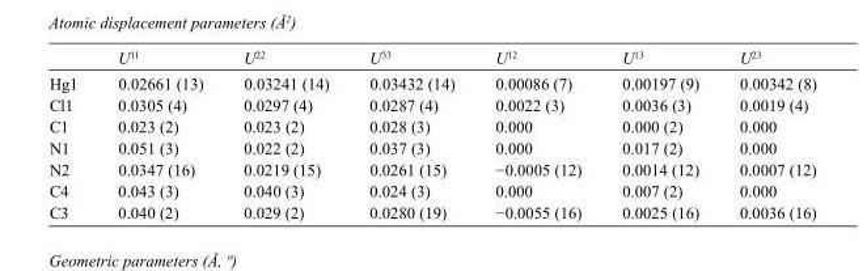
<table><thead><tr><td></td><td>U<sup>11</sup></td><td>U<sup>22</sup></td><td>U<sup>33</sup></td><td>U<sup>12</sup></td><td>U<sup>13</sup></td><td>U<sup>23</sup></td></tr></thead><tbody><tr><td>Hg1</td><td>0.02661 (13)</td><td>0.03241 (14)</td><td>0.03432 (14)</td><td>0.00086 (7)</td><td>0.00197 (9)</td><td>0.00342 (8)</td></tr><tr><td>Cl1</td><td>0.0305 (4)</td><td>0.0297 (4)</td><td>0.0287 (4)</td><td>0.0022 (3)</td><td>0.0036 (3)</td><td>0.0019 (4)</td></tr><tr><td>C1</td><td>0.023 (2)</td><td>0.023 (2)</td><td>0.028 (3)</td><td>0.000</td><td>0.000 (2)</td><td>0.000</td></tr><tr><td>N1</td><td>0.051 (3)</td><td>0.022 (2)</td><td>0.037 (3)</td><td>0.000</td><td>0.017 (2)</td><td>0.000</td></tr><tr><td>N2</td><td>0.0347 (16)</td><td>0.0219 (15)</td><td>0.0261 (15)</td><td>−0.0005 (12)</td><td>0.0014 (12)</td><td>0.0007 (12)</td></tr><tr><td>C4</td><td>0.043 (3)</td><td>0.040 (3)</td><td>0.024 (3)</td><td>0.000</td><td>0.007 (2)</td><td>0.000</td></tr><tr><td>C3</td><td>0.040 (2)</td><td>0.029 (2)</td><td>0.0280 (19)</td><td>−0.0055 (16)</td><td>0.0025 (16)</td><td>0.0036 (16)</td></tr></tbody></table>